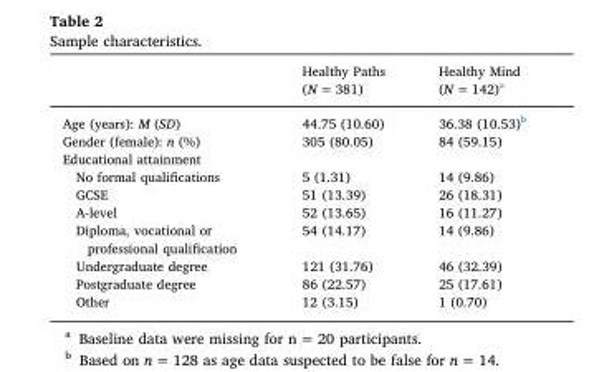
<table><thead><tr><td></td><td>Healthy Paths (N = 381)</td><td>Healthy Mind (N = 142)<sup>a</sup></td></tr></thead><tbody><tr><td>Age (years): M (SD)</td><td>44.75 (10.60)</td><td>36.38 (10.53)<sup>b</sup></td></tr><tr><td>Gender (female): n (%)</td><td>305 (80.05)</td><td>84 (59.15)</td></tr><tr><td colspan="3">Educational attainment</td></tr><tr><td>No formal qualifications</td><td>5 (1.31)</td><td>14 (9.86)</td></tr><tr><td>GCSE</td><td>51 (13.39)</td><td>26 (18.31)</td></tr><tr><td>A-level</td><td>52 (13.65)</td><td>16 (11.27)</td></tr><tr><td>Diploma, vocational or professional qualification</td><td>54 (14.17)</td><td>14 (9.86)</td></tr><tr><td>Undergraduate degree</td><td>121 (31.76)</td><td>46 (32.39)</td></tr><tr><td>Postgraduate degree</td><td>86 (22.57)</td><td>25 (17.61)</td></tr><tr><td>Other</td><td>12 (3.15)</td><td>1 (0.70)</td></tr></tbody></table>